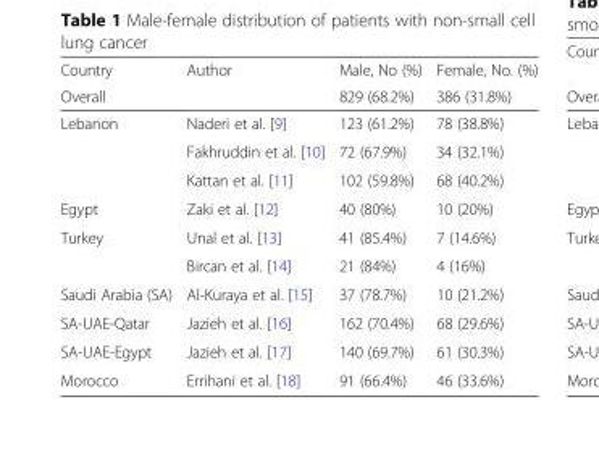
<table><thead><tr><td rowspan="2">Country Overall</td><td rowspan="2">Author</td><td rowspan="2">Male, No (%) 829 (68.2%)</td><td rowspan="2">Female, No. (%) 386 (31.8%)</td></tr><tr></tr></thead><tbody><tr><td rowspan="3">Lebanon</td><td>Naderi et al. [9]</td><td>123 (61.2%)</td><td>78 (38.8%)</td></tr><tr><td>Fakhruddin et al. [10]</td><td>72 (67.9%)</td><td>34 (32.1%)</td></tr><tr><td>Kattan et al. [11]</td><td>102 (59.8%)</td><td>68 (40.2%)</td></tr><tr><td>Egypt</td><td>Zaki et al. [12]</td><td>40 (80%)</td><td>10 (20%)</td></tr><tr><td rowspan="2">Turkey</td><td>Unal et al. [13]</td><td>41 (85.4%)</td><td>7 (14.6%)</td></tr><tr><td>Bircan et al. [14]</td><td>21 (84%)</td><td>4 (16%)</td></tr><tr><td>Saudi Arabia (SA)</td><td>Al-Kuraya et al. [15]</td><td>37 (78.7%)</td><td>10 (21.2%)</td></tr><tr><td>SA-UAE-Qatar</td><td>Jazieh et al. [16]</td><td>162 (70.4%)</td><td>68 (29.6%)</td></tr><tr><td>SA-UAE-Egypt</td><td>Jazieh et al. [17]</td><td>140 (69.7%)</td><td>61 (30.3%)</td></tr><tr><td>Morocco</td><td>Errihani et al. [18]</td><td>91 (66.4%)</td><td>46 (33.6%)</td></tr></tbody></table>